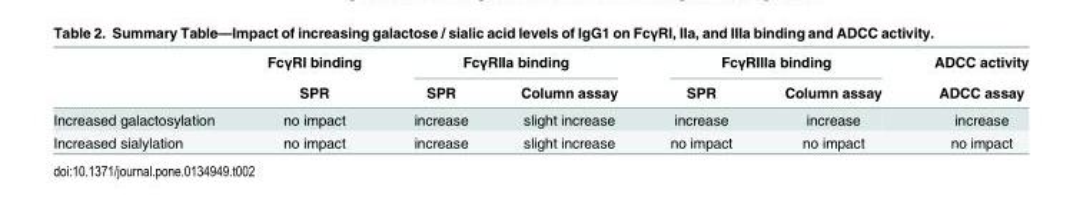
<table><thead><tr><td rowspan="2"></td><td rowspan="2">FcγRI binding SPR</td><td colspan="2">FcγRIIa binding</td><td colspan="2">FcγRIIIa binding</td><td rowspan="2">ADCC activity ADCC assay</td></tr><tr><td>SPR</td><td>Column assay</td><td>SPR</td><td>Column assay</td></tr></thead><tbody><tr><td>Increased galactosylation</td><td>no impact</td><td>increase</td><td>slight increase</td><td>increase</td><td>increase</td><td>increase</td></tr><tr><td>Increased sialylation</td><td>no impact</td><td>increase</td><td>slight increase</td><td>no impact</td><td>no impact</td><td>no impact</td></tr></tbody></table>